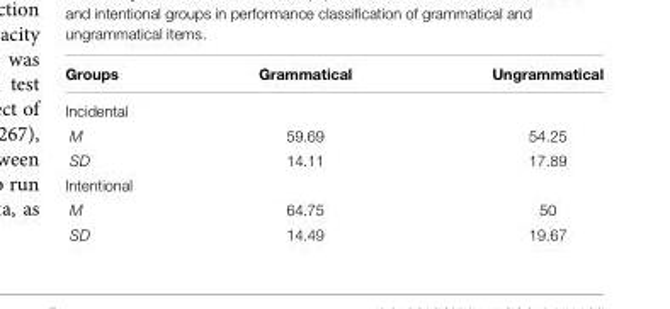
<table><thead><tr><td>Groups</td><td>Grammatical</td><td>Ungrammatical</td></tr></thead><tbody><tr><td colspan="3">Incidental</td></tr><tr><td>M</td><td>59.69</td><td>54.25</td></tr><tr><td>SD</td><td>14.11</td><td>17.89</td></tr><tr><td colspan="3">Intentional</td></tr><tr><td>M</td><td>64.75</td><td>50</td></tr><tr><td>SD</td><td>14.49</td><td>19.67</td></tr></tbody></table>